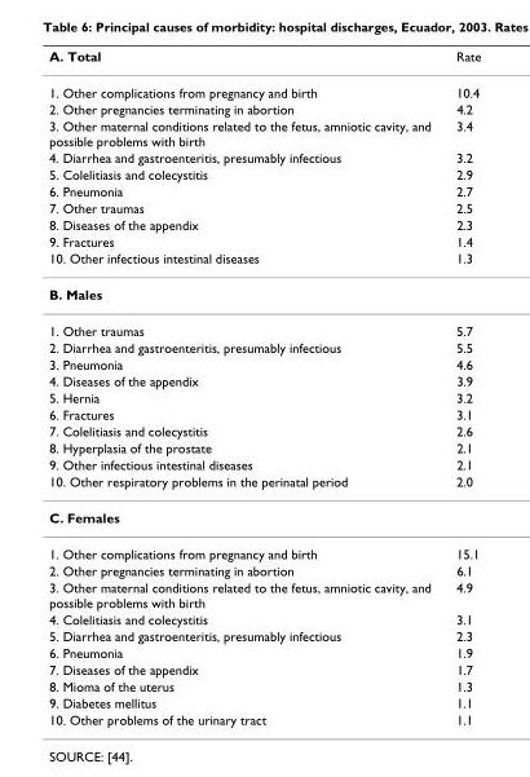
<table><thead><tr><td>A. Total</td><td>Rate</td></tr></thead><tbody><tr><td>1. Other complications from pregnancy and birth</td><td>10.4</td></tr><tr><td>2. Other pregnancies terminating in abortion</td><td>4.2</td></tr><tr><td>3. Other maternal conditions related to the fetus, amniotic cavity, and possible problems with birth</td><td>3.4</td></tr><tr><td>4. Diarrhea and gastroenteritis, presumably infectious</td><td>3.2</td></tr><tr><td>5. Colelitiasis and colecystitis</td><td>2.9</td></tr><tr><td>6. Pneumonia</td><td>2.7</td></tr><tr><td>7. Other traumas</td><td>2.5</td></tr><tr><td>8. Diseases of the appendix</td><td>2.3</td></tr><tr><td>9. Fractures</td><td>1.4</td></tr><tr><td>10. Other infectious intestinal diseases</td><td>1.3</td></tr><tr><td colspan="2">B. Males</td></tr><tr><td>1. Other traumas</td><td>5.7</td></tr><tr><td>2. Diarrhea and gastroenteritis, presumably infectious</td><td>5.5</td></tr><tr><td>3. Pneumonia</td><td>4.6</td></tr><tr><td>4. Diseases of the appendix</td><td>3.9</td></tr><tr><td>5. Hernia</td><td>3.2</td></tr><tr><td>6. Fractures</td><td>3.1</td></tr><tr><td>7. Colelitiasis and colecystitis</td><td>2.6</td></tr><tr><td>8. Hyperplasia of the prostate</td><td>2.1</td></tr><tr><td>9. Other infectious intestinal diseases</td><td>2.1</td></tr><tr><td>10. Other respiratory problems in the perinatal period</td><td>2.0</td></tr><tr><td colspan="2">C. Females</td></tr><tr><td>1. Other complications from pregnancy and birth</td><td>15.1</td></tr><tr><td>2. Other pregnancies terminating in abortion</td><td>6.1</td></tr><tr><td>3. Other maternal conditions related to the fetus, amniotic cavity, and possible problems with birth</td><td>4.9</td></tr><tr><td>4. Colelitiasis and colecystitis</td><td>3.1</td></tr><tr><td>5. Diarrhea and gastroenteritis, presumably infectious</td><td>2.3</td></tr><tr><td>6. Pneumonia</td><td>1.9</td></tr><tr><td>7. Diseases of the appendix</td><td>1.7</td></tr><tr><td>8. Mioma of the uterus</td><td>1.3</td></tr><tr><td>9. Diabetes mellitus</td><td>1.1</td></tr><tr><td>10. Other problems of the urinary tract</td><td>1.1</td></tr></tbody></table>